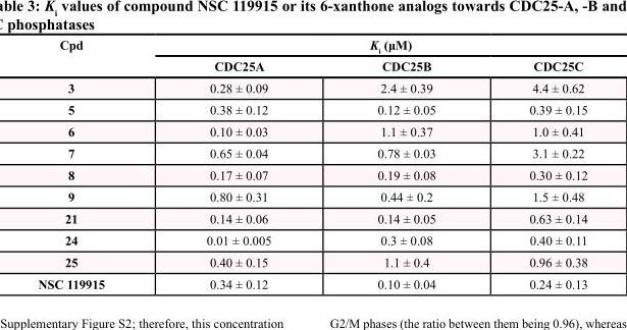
<table><thead><tr><td rowspan="2">Cpd</td><td colspan="3">K<sub>i</sub> (μM)</td></tr><tr><td>CDC25A</td><td>CDC25B</td><td>CDC25C</td></tr></thead><tbody><tr><td>3</td><td>0.28 ± 0.09</td><td>2.4 ± 0.39</td><td>4.4 ± 0.62</td></tr><tr><td>5</td><td>0.38 ± 0.12</td><td>0.12 ± 0.05</td><td>0.39 ± 0.15</td></tr><tr><td>6</td><td>0.10 ± 0.03</td><td>1.1 ± 0.37</td><td>1.0 ± 0.41</td></tr><tr><td>7</td><td>0.65 ± 0.04</td><td>0.78 ± 0.03</td><td>3.1 ± 0.22</td></tr><tr><td>8</td><td>0.17 ± 0.07</td><td>0.19 ± 0.08</td><td>0.30 ± 0.12</td></tr><tr><td>9</td><td>0.80 ± 0.31</td><td>0.44 ± 0.2</td><td>1.5 ± 0.48</td></tr><tr><td>21</td><td>0.14 ± 0.06</td><td>0.14 ± 0.05</td><td>0.63 ± 0.14</td></tr><tr><td>24</td><td>0.01 ± 0.005</td><td>0.3 ± 0.08</td><td>0.40 ± 0.11</td></tr><tr><td>25</td><td>0.40 ± 0.15</td><td>1.1 ± 0.4</td><td>0.96 ± 0.38</td></tr><tr><td>NSC 119915</td><td>0.34 ± 0.12</td><td>0.10 ± 0.04</td><td>0.24 ± 0.13</td></tr></tbody></table>